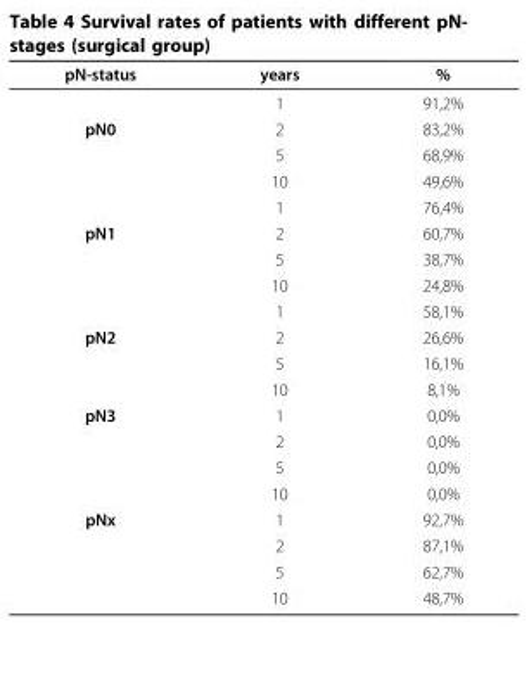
<table><thead><tr><td>pN-status</td><td>years</td><td>%</td></tr></thead><tbody><tr><td></td><td>1</td><td>91,2%</td></tr><tr><td rowspan="4">pN0</td><td>2</td><td>83,2%</td></tr><tr><td>5</td><td>68,9%</td></tr><tr><td>10</td><td>49,6%</td></tr><tr><td>1</td><td>76,4%</td></tr><tr><td rowspan="4">pN1</td><td>2</td><td>60,7%</td></tr><tr><td>5</td><td>38,7%</td></tr><tr><td>10</td><td>24,8%</td></tr><tr><td>1</td><td>58,1%</td></tr><tr><td rowspan="3">pN2</td><td>2</td><td>26,6%</td></tr><tr><td>5</td><td>16,1%</td></tr><tr><td>10</td><td>8,1%</td></tr><tr><td rowspan="4">pN3</td><td>1</td><td>0,0%</td></tr><tr><td>2</td><td>0,0%</td></tr><tr><td>5</td><td>0,0%</td></tr><tr><td>10</td><td>0,0%</td></tr><tr><td rowspan="4">pNx</td><td>1</td><td>92,7%</td></tr><tr><td>2</td><td>87,1%</td></tr><tr><td>5</td><td>62,7%</td></tr><tr><td>10</td><td>48,7%</td></tr></tbody></table>